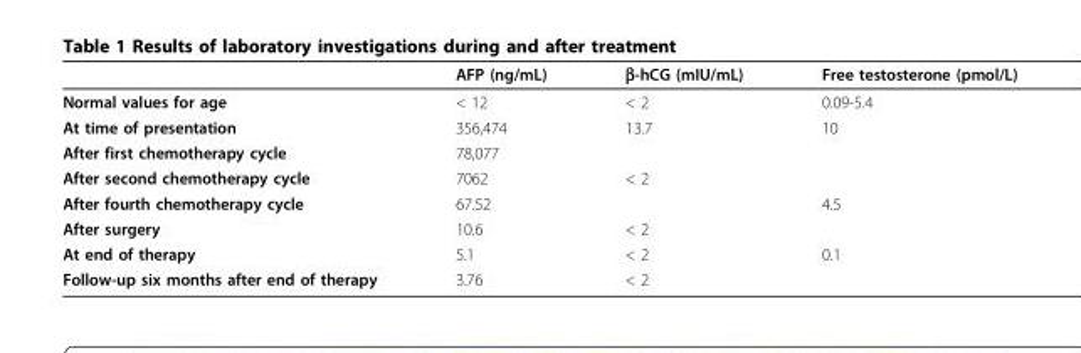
<table><thead><tr><td></td><td>AFP (ng/mL)</td><td>β-hCG (mIU/mL)</td><td>Free testosterone (pmol/L)</td></tr></thead><tbody><tr><td>Normal values for age</td><td>&lt; 12</td><td>&lt; 2</td><td>0.09-5.4</td></tr><tr><td>At time of presentation</td><td>356,474</td><td>13.7</td><td>10</td></tr><tr><td>After first chemotherapy cycle</td><td>78,077</td><td></td><td></td></tr><tr><td>After second chemotherapy cycle</td><td>7062</td><td>&lt; 2</td><td></td></tr><tr><td>After fourth chemotherapy cycle</td><td>67.52</td><td></td><td>4.5</td></tr><tr><td>After surgery</td><td>10.6</td><td>&lt; 2</td><td></td></tr><tr><td>At end of therapy</td><td>5.1</td><td>&lt; 2</td><td>0.1</td></tr><tr><td>Follow-up six months after end of therapy</td><td>3.76</td><td>&lt; 2</td><td></td></tr></tbody></table>